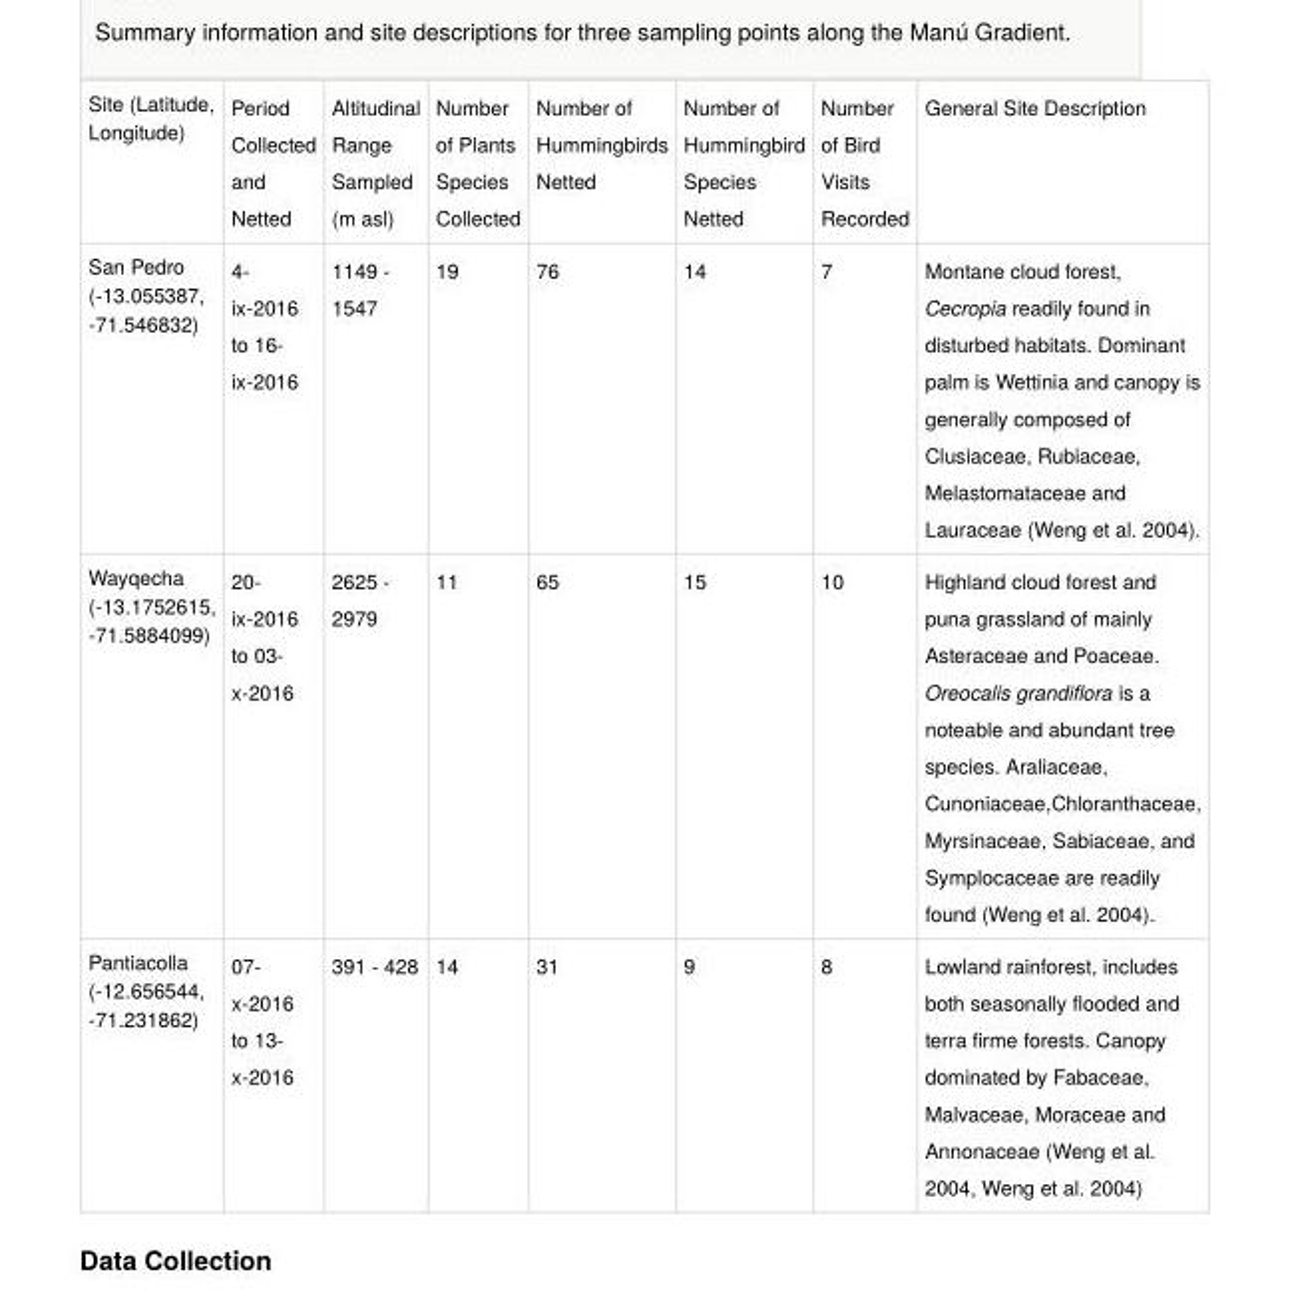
<table><tbody><tr><td>Site (Latitude, Longitude)</td><td>Period Collected and Netted</td><td>Altitudinal Range Sampled (m asl)</td><td>Number of Plants Species Collected</td><td>Number of Hummingbirds Netted</td><td>Number of Hummingbird Species Netted</td><td>Number of Bird Visits Recorded</td><td>General Site Description</td></tr><tr><td>San Pedro (-13.055387, -71.546832)</td><td>4- ix-2016 to 16- ix-2016</td><td>1149 - 1547</td><td>19</td><td>76</td><td>14</td><td>7</td><td>Montane cloud forest, Cecropia readily found in disturbed habitats. Dominant palm is Wettinia and canopy is generally composed of Clusiaceae, Rubiaceae, Melastomataceae and Lauraceae (Weng et al. 2004).</td></tr><tr><td>Wayqecha (-13.1752615, -71.5884099)</td><td>20- ix-2016 to 03- x-2016</td><td>2625 - 2979</td><td>11</td><td>65</td><td>15</td><td>10</td><td>Highland cloud forest and puna grassland of mainly Asteraceae and Poaceae. Oreocalis grandiflora is a noteable and abundant tree species. Araliaceae, Cunoniaceae,Chloranthaceae, Myrsinaceae, Sabiaceae, and Symplocaceae are readily found (Weng et al. 2004).</td></tr><tr><td>Pantiacolla (-12.656544, -71.231862)</td><td>07- x-2016 to 13- x-2016</td><td>391 - 428</td><td>14</td><td>31</td><td>9</td><td>8</td><td>Lowland rainforest, includes both seasonally flooded and terra firme forests. Canopy dominated by Fabaceae, Malvaceae, Moraceae and Annonaceae (Weng et al. 2004, Weng et al. 2004)</td></tr></tbody></table>